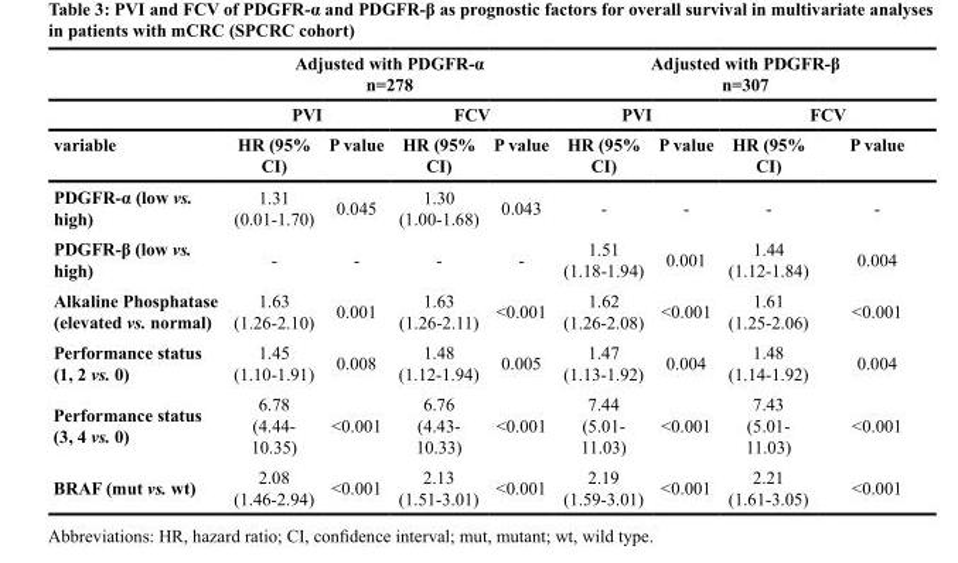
<table><thead><tr><td rowspan="3">variable</td><td colspan="4">Adjusted with PDGFR-α n=278</td><td colspan="4">Adjusted with PDGFR-β n=307</td></tr><tr><td colspan="2">PVI</td><td colspan="2">FCV</td><td colspan="2">PVI</td><td colspan="2">FCV</td></tr><tr><td>HR (95% CI)</td><td>P value</td><td>HR (95% CI)</td><td>P value</td><td>HR (95% CI)</td><td>P value</td><td>HR (95% CI)</td><td>P value</td></tr></thead><tbody><tr><td>PDGFR-α (low vs. high)</td><td>1.31 (0.01-1.70)</td><td>0.045</td><td>1.30 (1.00-1.68)</td><td>0.043</td><td>-</td><td>-</td><td>-</td><td>-</td></tr><tr><td>PDGFR-β (low vs. high)</td><td>-</td><td>-</td><td>-</td><td>-</td><td>1.51 (1.18-1.94)</td><td>0.001</td><td>1.44 (1.12-1.84)</td><td>0.004</td></tr><tr><td>Alkaline Phosphatase (elevated vs. normal)</td><td>1.63 (1.26-2.10)</td><td>0.001</td><td>1.63 (1.26-2.11)</td><td>&lt;0.001</td><td>1.62 (1.26-2.08)</td><td>&lt;0.001</td><td>1.61 (1.25-2.06)</td><td>&lt;0.001</td></tr><tr><td>Performance status (1, 2 vs. 0)</td><td>1.45 (1.10-1.91)</td><td>0.008</td><td>1.48 (1.12-1.94)</td><td>0.005</td><td>1.47 (1.13-1.92)</td><td>0.004</td><td>1.48 (1.14-1.92)</td><td>0.004</td></tr><tr><td>Performance status (3, 4 vs. 0)</td><td>6.78 (4.44- 10.35)</td><td>&lt;0.001</td><td>6.76 (4.43- 10.33)</td><td>&lt;0.001</td><td>7.44 (5.01- 11.03)</td><td>&lt;0.001</td><td>7.43 (5.01- 11.03)</td><td>&lt;0.001</td></tr><tr><td>BRAF (mut vs. wt)</td><td>2.08 (1.46-2.94)</td><td>&lt;0.001</td><td>2.13 (1.51-3.01)</td><td>&lt;0.001</td><td>2.19 (1.59-3.01)</td><td>&lt;0.001</td><td>2.21 (1.61-3.05)</td><td>&lt;0.001</td></tr></tbody></table>